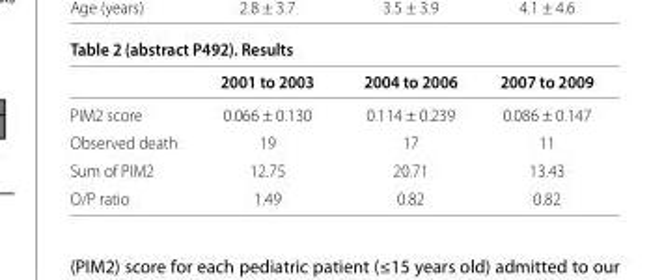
<table><thead><tr><td></td><td>2001 to 2003</td><td>2004 to 2006</td><td>2007 to 2009</td></tr></thead><tbody><tr><td>PIM2 score</td><td>0.066 ± 0.130</td><td>0.114 ± 0.239</td><td>0.086 ± 0.147</td></tr><tr><td>Observed death</td><td>19</td><td>17</td><td>11</td></tr><tr><td>Sum of PIM2</td><td>12.75</td><td>20.71</td><td>13.43</td></tr><tr><td>O/P ratio</td><td>1.49</td><td>0.82</td><td>0.82</td></tr></tbody></table>